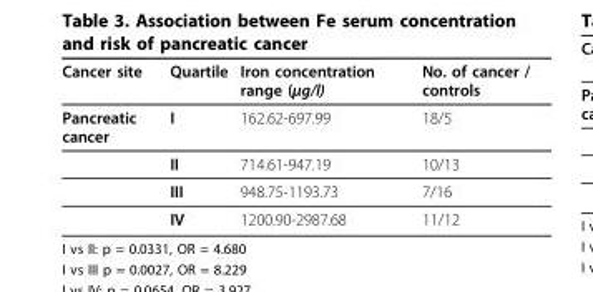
<table><thead><tr><td>Cancer site</td><td>Quartile</td><td>Iron concentration range (µg/l)</td><td>No. of cancer / controls</td></tr></thead><tbody><tr><td rowspan="4">Pancreatic cancer</td><td>I</td><td>162.62-697.99</td><td>18/5</td></tr><tr><td>II</td><td>714.61-947.19</td><td>10/13</td></tr><tr><td>III</td><td>948.75-1193.73</td><td>7/16</td></tr><tr><td>IV</td><td>1200.90-2987.68</td><td>11/12</td></tr></tbody></table>